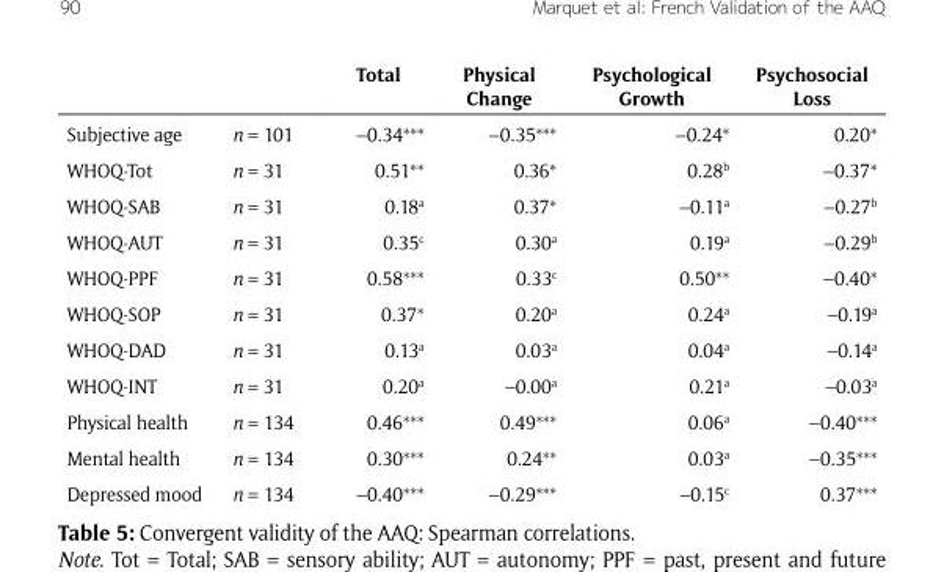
<table><thead><tr><td></td><td></td><td>Total</td><td>Physical Change</td><td>Psychological Growth</td><td>Psychosocial Loss</td></tr></thead><tbody><tr><td>Subjective age</td><td>n = 101</td><td>–0.34***</td><td>–0.35***</td><td>–0.24*</td><td>0.20*</td></tr><tr><td>WHOQ-Tot</td><td>n = 31</td><td>0.51**</td><td>0.36*</td><td>0.28<sup>b</sup></td><td>–0.37*</td></tr><tr><td>WHOQ-SAB</td><td>n = 31</td><td>0.18<sup>a</sup></td><td>0.37*</td><td>–0.11<sup>a</sup></td><td>–0.27<sup>b</sup></td></tr><tr><td>WHOQ-AUT</td><td>n = 31</td><td>0.35<sup>c</sup></td><td>0.30<sup>a</sup></td><td>0.19<sup>a</sup></td><td>–0.29<sup>b</sup></td></tr><tr><td>WHOQ-PPF</td><td>n = 31</td><td>0.58***</td><td>0.33<sup>c</sup></td><td>0.50**</td><td>–0.40*</td></tr><tr><td>WHOQ-SOP</td><td>n = 31</td><td>0.37*</td><td>0.20<sup>a</sup></td><td>0.24<sup>a</sup></td><td>–0.19<sup>a</sup></td></tr><tr><td>WHOQ-DAD</td><td>n = 31</td><td>0.13<sup>a</sup></td><td>0.03<sup>a</sup></td><td>0.04<sup>a</sup></td><td>–0.14<sup>a</sup></td></tr><tr><td>WHOQ-INT</td><td>n = 31</td><td>0.20<sup>a</sup></td><td>–0.00<sup>a</sup></td><td>0.21<sup>a</sup></td><td>–0.03<sup>a</sup></td></tr><tr><td>Physical health</td><td>n = 134</td><td>0.46***</td><td>0.49***</td><td>0.06<sup>a</sup></td><td>–0.40***</td></tr><tr><td>Mental health</td><td>n = 134</td><td>0.30***</td><td>0.24**</td><td>0.03<sup>a</sup></td><td>–0.35***</td></tr><tr><td>Depressed mood</td><td>n = 134</td><td>–0.40***</td><td>–0.29***</td><td>–0.15<sup>c</sup></td><td>0.37***</td></tr></tbody></table>